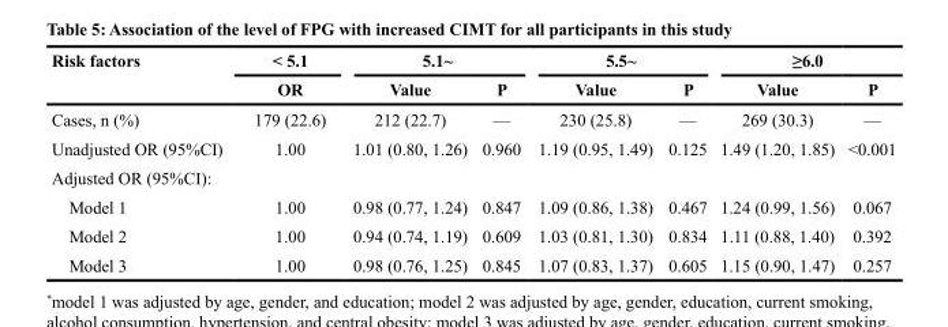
<table><thead><tr><td rowspan="2">Risk factors</td><td rowspan="2">&lt; 5.1 OR</td><td colspan="2">5.1~</td><td colspan="2">5.5~</td><td colspan="2">≥6.0</td></tr><tr><td>Value</td><td>P</td><td>Value</td><td>P</td><td>Value</td><td>P</td></tr></thead><tbody><tr><td>Cases, n (%)</td><td>179 (22.6)</td><td>212 (22.7)</td><td>—</td><td>230 (25.8)</td><td>—</td><td>269 (30.3)</td><td>—</td></tr><tr><td>Unadjusted OR (95%CI)</td><td>1.00</td><td>1.01 (0.80, 1.26)</td><td>0.960</td><td>1.19 (0.95, 1.49)</td><td>0.125</td><td>1.49 (1.20, 1.85)</td><td>&lt;0.001</td></tr><tr><td colspan="8">Adjusted OR (95%CI):</td></tr><tr><td>Model 1</td><td>1.00</td><td>0.98 (0.77, 1.24)</td><td>0.847</td><td>1.09 (0.86, 1.38)</td><td>0.467</td><td>1.24 (0.99, 1.56)</td><td>0.067</td></tr><tr><td>Model 2</td><td>1.00</td><td>0.94 (0.74, 1.19)</td><td>0.609</td><td>1.03 (0.81, 1.30)</td><td>0.834</td><td>1.11 (0.88, 1.40)</td><td>0.392</td></tr><tr><td>Model 3</td><td>1.00</td><td>0.98 (0.76, 1.25)</td><td>0.845</td><td>1.07 (0.83, 1.37)</td><td>0.605</td><td>1.15 (0.90, 1.47)</td><td>0.257</td></tr></tbody></table>